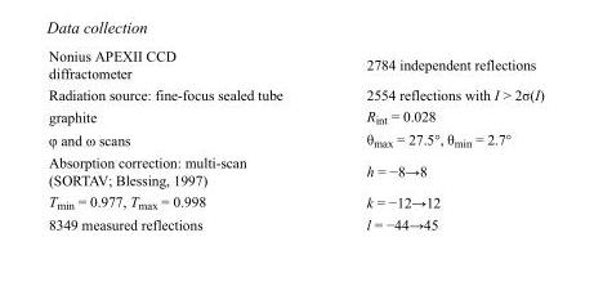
<table><tbody><tr><td>Nonius APEXII CCD diffractometer</td><td>2784 independent reflections</td></tr><tr><td>Radiation source: fine-focus sealed tube</td><td>2554 reflections with I &gt; 2σ(I)</td></tr><tr><td>graphite</td><td>R<sub>int</sub> = 0.028</td></tr><tr><td>φ and ω scans</td><td>θ<sub>max</sub> = 27.5°, θ<sub>min</sub> = 2.7°</td></tr><tr><td>Absorption correction: multi-scan (SORTAV; Blessing, 1997)</td><td>h = −8→8</td></tr><tr><td>T<sub>min</sub> = 0.977, T<sub>max</sub> = 0.998</td><td>k = −12→12</td></tr><tr><td>8349 measured reflections</td><td>l = −44→45</td></tr></tbody></table>